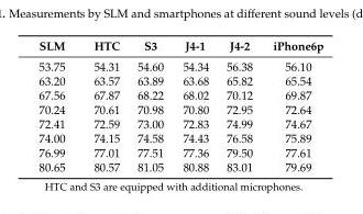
<table><thead><tr><td>SLM</td><td>HTC</td><td>S3</td><td>J4-1</td><td>J4-2</td><td>iPhone6p</td></tr></thead><tbody><tr><td>53.75</td><td>54.31</td><td>54.60</td><td>54.34</td><td>56.38</td><td>56.10</td></tr><tr><td>63.20</td><td>63.57</td><td>63.89</td><td>63.68</td><td>65.82</td><td>65.54</td></tr><tr><td>67.56</td><td>67.87</td><td>68.22</td><td>68.02</td><td>70.12</td><td>69.87</td></tr><tr><td>70.24</td><td>70.61</td><td>70.98</td><td>70.80</td><td>72.95</td><td>72.64</td></tr><tr><td>72.41</td><td>72.59</td><td>73.00</td><td>72.83</td><td>74.99</td><td>74.67</td></tr><tr><td>74.00</td><td>74.15</td><td>74.58</td><td>74.43</td><td>76.58</td><td>75.89</td></tr><tr><td>76.99</td><td>77.01</td><td>77.51</td><td>77.36</td><td>79.50</td><td>77.61</td></tr><tr><td>80.65</td><td>80.57</td><td>81.05</td><td>80.88</td><td>83.01</td><td>79.69</td></tr></tbody></table>